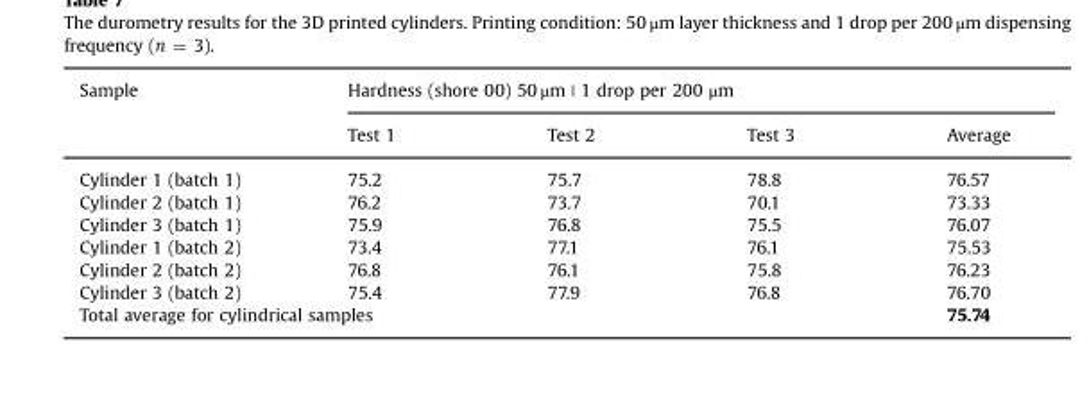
<table><thead><tr><td rowspan="2">Sample</td><td colspan="4">Hardness (shore 00) 50 μm | 1 drop per 200 μm</td></tr><tr><td>Test 1</td><td>Test 2</td><td>Test 3</td><td>Average</td></tr></thead><tbody><tr><td>Cylinder 1 (batch 1)</td><td>75.2</td><td>75.7</td><td>78.8</td><td>76.57</td></tr><tr><td>Cylinder 2 (batch 1)</td><td>76.2</td><td>73.7</td><td>70.1</td><td>73.33</td></tr><tr><td>Cylinder 3 (batch 1)</td><td>75.9</td><td>76.8</td><td>75.5</td><td>76.07</td></tr><tr><td>Cylinder 1 (batch 2)</td><td>73.4</td><td>77.1</td><td>76.1</td><td>75.53</td></tr><tr><td>Cylinder 2 (batch 2)</td><td>76.8</td><td>76.1</td><td>75.8</td><td>76.23</td></tr><tr><td>Cylinder 3 (batch 2)</td><td>75.4</td><td>77.9</td><td>76.8</td><td>76.70</td></tr><tr><td colspan="4">Total average for cylindrical samples</td><td>75.74</td></tr></tbody></table>